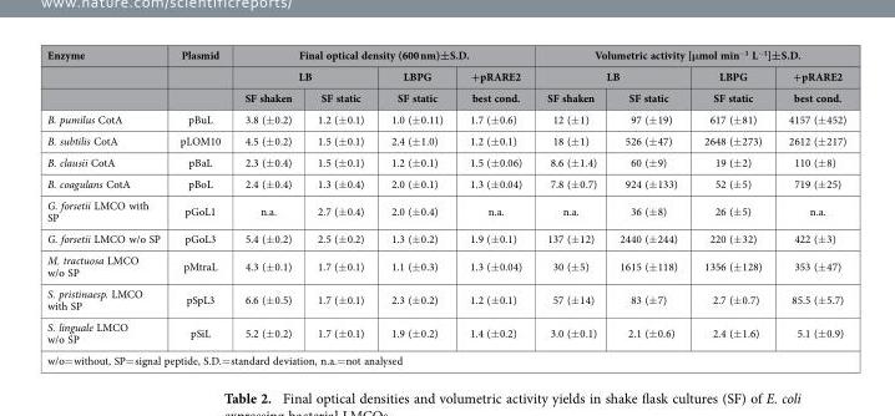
<table><thead><tr><td rowspan="3">Enzyme</td><td rowspan="3">Plasmid</td><td colspan="4">Final optical density (600 nm)±S.D.</td><td colspan="4">Volumetric activity [μmol min<sup>−1</sup> L<sup>−1</sup>]±S.D.</td></tr><tr><td colspan="2">LB</td><td rowspan="2">LBPG SF static</td><td rowspan="2">+pRARE2 best cond.</td><td colspan="2">LB</td><td rowspan="2">LBPG SF static</td><td rowspan="2">+pRARE2 best cond.</td></tr><tr><td>SF shaken</td><td>SF static</td><td>SF shaken</td><td>SF static</td></tr></thead><tbody><tr><td>B. pumilus CotA</td><td>pBuL</td><td>3.8 (± 0.2)</td><td>1.2 (± 0.1)</td><td>1.0 (± 0.11)</td><td>1.7 (± 0.6)</td><td>12 (± 1)</td><td>97 (± 19)</td><td>617 (± 81)</td><td>4157 (± 452)</td></tr><tr><td>B. subtilis CotA</td><td>pLOM10</td><td>4.5 (± 0.2)</td><td>1.5 (± 0.1)</td><td>2.4 (± 1.0)</td><td>1.2 (± 0.1)</td><td>18 (± 1)</td><td>526 (± 47)</td><td>2648 (± 273)</td><td>2612 (± 217)</td></tr><tr><td>B. clausii CotA</td><td>pBaL</td><td>2.3 (± 0.4)</td><td>1.5 (± 0.1)</td><td>1.2 (± 0.1)</td><td>1.5 (± 0.06)</td><td>8.6 (± 1.4)</td><td>60 (± 9)</td><td>19 (± 2)</td><td>110 (± 8)</td></tr><tr><td>B. coagulans CotA</td><td>pBoL</td><td>2.4 (± 0.4)</td><td>1.3 (± 0.4)</td><td>2.0 (± 0.1)</td><td>1.3 (± 0.04)</td><td>7.8 (± 0.7)</td><td>924 (± 133)</td><td>52 (± 5)</td><td>719 (± 25)</td></tr><tr><td>G. forsetii LMCO with SP</td><td>pGoL1</td><td>n.a.</td><td>2.7 (± 0.4)</td><td>2.0 (± 0.4)</td><td>n.a.</td><td>n.a.</td><td>36 (± 8)</td><td>26 (± 5)</td><td>n.a.</td></tr><tr><td>G. forsetii LMCO w/o SP</td><td>pGoL3</td><td>5.4 (± 0.2)</td><td>2.5 (± 0.2)</td><td>1.3 (± 0.2)</td><td>1.9 (± 0.1)</td><td>137 (± 12)</td><td>2440 (± 244)</td><td>220 (± 32)</td><td>422 (± 3)</td></tr><tr><td>M. tractuosa LMCO w/o SP</td><td>pMtraL</td><td>4.3 (± 0.1)</td><td>1.7 (± 0.1)</td><td>1.1 (± 0.3)</td><td>1.3 (± 0.04)</td><td>30 (± 5)</td><td>1615 (± 118)</td><td>1356 (± 128)</td><td>353 (± 47)</td></tr><tr><td>S. pristinaesp. LMCO with SP</td><td>pSpL3</td><td>6.6 (± 0.5)</td><td>1.7 (± 0.1)</td><td>2.3 (± 0.2)</td><td>1.2 (± 0.1)</td><td>57 (± 14)</td><td>83 (± 7)</td><td>2.7 (± 0.7)</td><td>85.5 (± 5.7)</td></tr><tr><td>S. linguale LMCO w/o SP</td><td>pSiL</td><td>5.2 (± 0.2)</td><td>1.7 (± 0.1)</td><td>1.9 (± 0.2)</td><td>1.4 (± 0.2)</td><td>3.0 (± 0.1)</td><td>2.1 (± 0.6)</td><td>2.4 (± 1.6)</td><td>5.1 (± 0.9)</td></tr><tr><td colspan="10">w/o= without, SP= signal peptide, S.D.= standard deviation, n.a.= not analysed</td></tr></tbody></table>